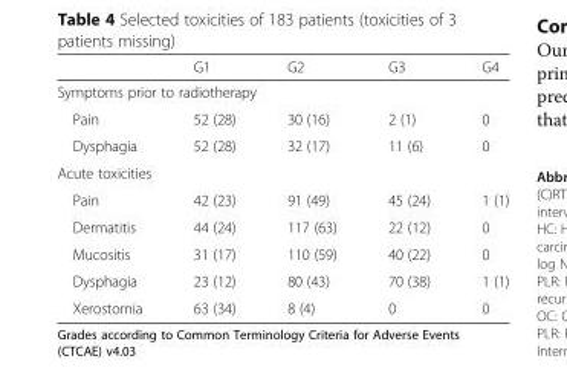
<table><thead><tr><td></td><td>G1</td><td>G2</td><td>G3</td><td>G4</td></tr></thead><tbody><tr><td colspan="5">Symptoms prior to radiotherapy</td></tr><tr><td>Pain</td><td>52 (28)</td><td>30 (16)</td><td>2 (1)</td><td>0</td></tr><tr><td>Dysphagia</td><td>52 (28)</td><td>32 (17)</td><td>11 (6)</td><td>0</td></tr><tr><td colspan="5">Acute toxicities</td></tr><tr><td>Pain</td><td>42 (23)</td><td>91 (49)</td><td>45 (24)</td><td>1 (1)</td></tr><tr><td>Dermatitis</td><td>44 (24)</td><td>117 (63)</td><td>22 (12)</td><td>0</td></tr><tr><td>Mucositis</td><td>31 (17)</td><td>110 (59)</td><td>40 (22)</td><td>0</td></tr><tr><td>Dysphagia</td><td>23 (12)</td><td>80 (43)</td><td>70 (38)</td><td>1 (1)</td></tr><tr><td>Xerostomia</td><td>63 (34)</td><td>8 (4)</td><td>0</td><td>0</td></tr></tbody></table>